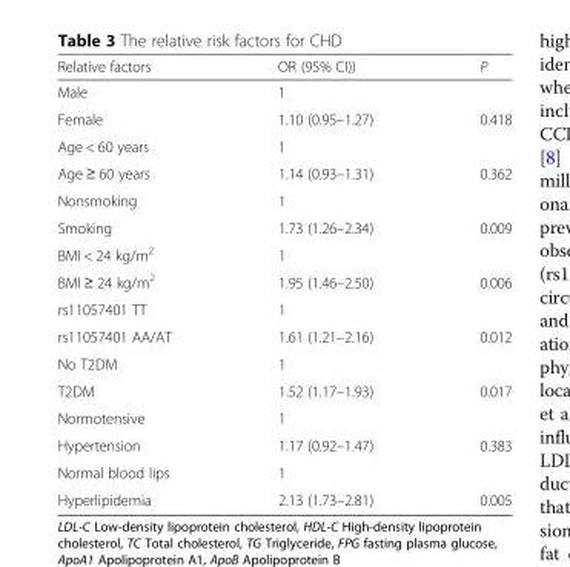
<table><thead><tr><td>Relative factors</td><td>OR (95% CI))</td><td>P</td></tr></thead><tbody><tr><td>Male</td><td>1</td><td></td></tr><tr><td>Female</td><td>1.10 (0.95–1.27)</td><td>0.418</td></tr><tr><td>Age &lt; 60 years</td><td>1</td><td></td></tr><tr><td>Age ≥ 60 years</td><td>1.14 (0.93–1.31)</td><td>0.362</td></tr><tr><td>Nonsmoking</td><td>1</td><td></td></tr><tr><td>Smoking</td><td>1.73 (1.26–2.34)</td><td>0.009</td></tr><tr><td>BMI &lt; 24 kg/m<sup>2</sup></td><td>1</td><td></td></tr><tr><td>BMI ≥ 24 kg/m<sup>2</sup></td><td>1.95 (1.46–2.50)</td><td>0.006</td></tr><tr><td>rs11057401 TT</td><td>1</td><td></td></tr><tr><td>rs11057401 AA/AT</td><td>1.61 (1.21–2.16)</td><td>0.012</td></tr><tr><td>No T2DM</td><td>1</td><td></td></tr><tr><td>T2DM</td><td>1.52 (1.17–1.93)</td><td>0.017</td></tr><tr><td>Normotensive</td><td>1</td><td></td></tr><tr><td>Hypertension</td><td>1.17 (0.92–1.47)</td><td>0.383</td></tr><tr><td>Normal blood lips</td><td>1</td><td></td></tr><tr><td>Hyperlipidemia</td><td>2.13 (1.73–2.81)</td><td>0.005</td></tr></tbody></table>